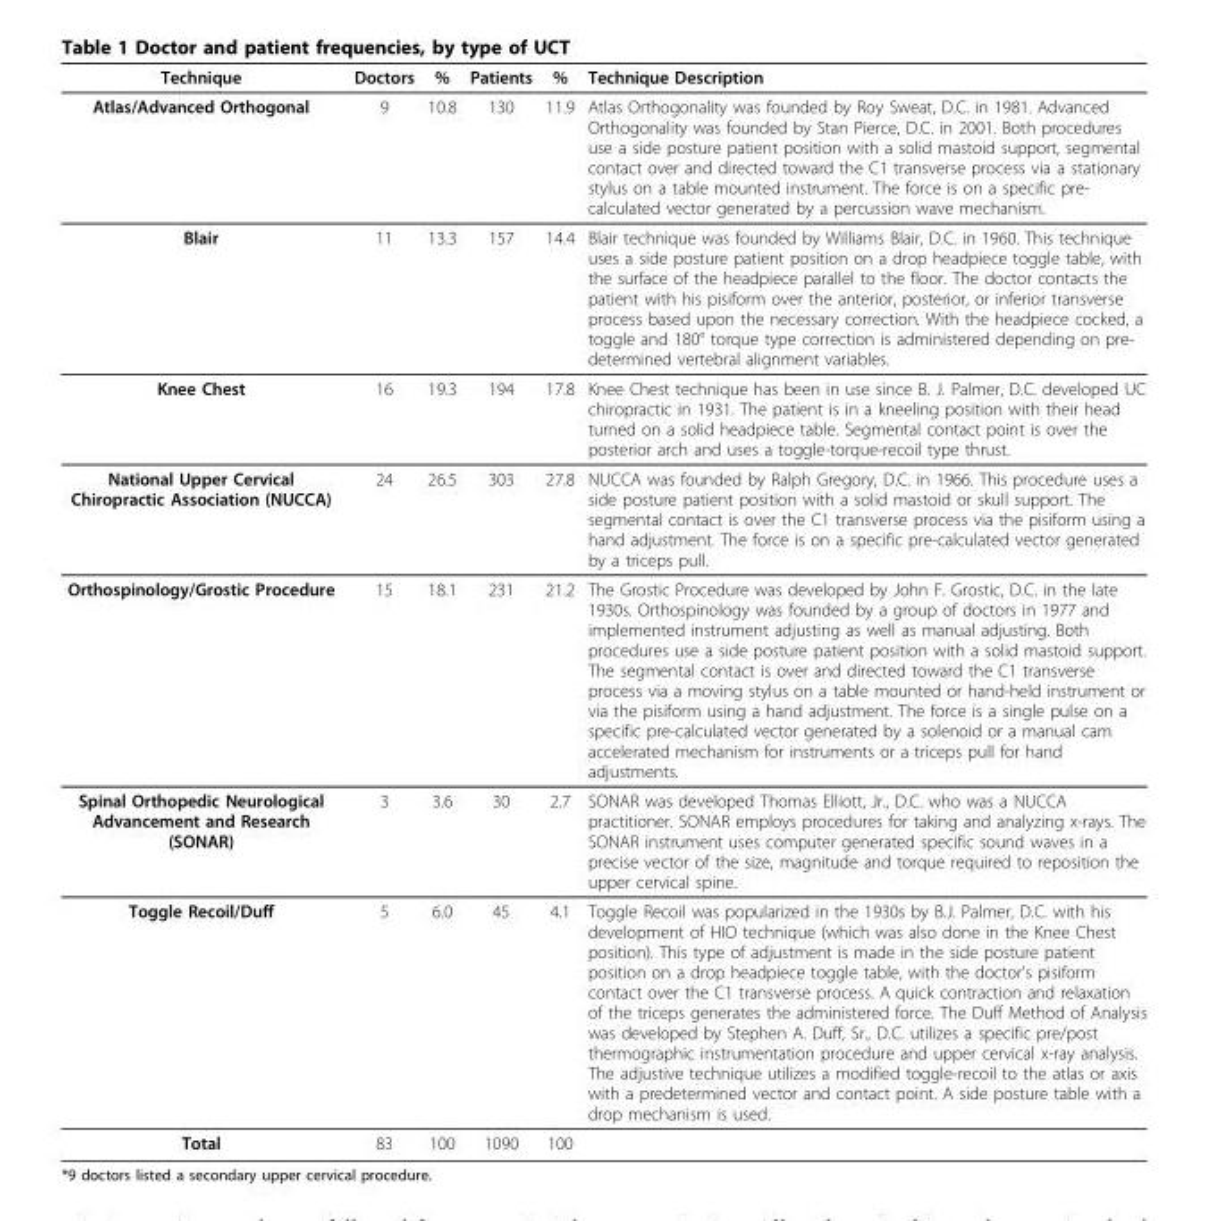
<table><thead><tr><td>Technique</td><td>Doctors</td><td>%</td><td>Patients</td><td>%</td><td>Technique Description</td></tr></thead><tbody><tr><td>Atlas/Advanced Orthogonal</td><td>9</td><td>10.8</td><td>130</td><td>11.9</td><td>Atlas Orthogonality was founded by Roy Sweat, D.C. in 1981. Advanced Orthogonality was founded by Stan Pierce, D.C. in 2001. Both procedures use a side posture patient position with a solid mastoid support, segmental contact over and directed toward the C1 transverse process via a stationary stylus on a table mounted instrument. The force is on a specific pre- calculated vector generated by a percussion wave mechanism.</td></tr><tr><td>Blair</td><td>11</td><td>13.3</td><td>157</td><td>14.4</td><td>Blair technique was founded by Williams Blair, D.C. in 1960. This technique uses a side posture patient position on a drop headpiece toggle table, with the surface of the headpiece parallel to the floor. The doctor contacts the patient with his pisiform over the anterior, posterior, or inferior transverse process based upon the necessary correction. With the headpiece cocked, a toggle and 180° torque type correction is administered depending on pre- determined vertebral alignment variables.</td></tr><tr><td>Knee Chest</td><td>16</td><td>19.3</td><td>194</td><td>17.8</td><td>Knee Chest technique has been in use since B. J. Palmer, D.C. developed UC chiropractic in 1931. The patient is in a kneeling position with their head turned on a solid headpiece table. Segmental contact point is over the posterior arch and uses a toggle-torque-recoil type thrust.</td></tr><tr><td>National Upper Cervical Chiropractic Association (NUCCA)</td><td>24</td><td>26.5</td><td>303</td><td>27.8</td><td>NUCCA was founded by Ralph Gregory, D.C. in 1966. This procedure uses a side posture patient position with a solid mastoid or skull support. The segmental contact is over the C1 transverse process via the pisiform using a hand adjustment. The force is on a specific pre-calculated vector generated by a triceps pull.</td></tr><tr><td>Orthospinology/Grostic Procedure</td><td>15</td><td>18.1</td><td>231</td><td>21.2</td><td>The Grostic Procedure was developed by John F. Grostic, D.C. in the late 1930s. Orthospinology was founded by a group of doctors in 1977 and implemented instrument adjusting as well as manual adjusting. Both procedures use a side posture patient position with a solid mastoid support. The segmental contact is over and directed toward the C1 transverse process via a moving stylus on a table mounted or hand-held instrument or via the pisiform using a hand adjustment. The force is a single pulse on a specific pre-calculated vector generated by a solenoid or a manual cam accelerated mechanism for instruments or a triceps pull for hand adjustments.</td></tr><tr><td>Spinal Orthopedic Neurological Advancement and Research (SONAR)</td><td>3</td><td>3.6</td><td>30</td><td>2.7</td><td>SONAR was developed Thomas Elliott, Jr., D.C. who was a NUCCA practitioner. SONAR employs procedures for taking and analyzing x-rays. The SONAR instrument uses computer generated specific sound waves in a precise vector of the size, magnitude and torque required to reposition the upper cervical spine.</td></tr><tr><td>Toggle Recoil/Duff</td><td>5</td><td>6.0</td><td>45</td><td>4.1</td><td>Toggle Recoil was popularized in the 1930s by B.J. Palmer, D.C. with his development of HIO technique (which was also done in the Knee Chest position). This type of adjustment is made in the side posture patient position on a drop headpiece toggle table, with the doctor’s pisiform contact over the C1 transverse process. A quick contraction and relaxation of the triceps generates the administered force. The Duff Method of Analysis was developed by Stephen A. Duff, Sr., D.C. utilizes a specific pre/post thermographic instrumentation procedure and upper cervical x-ray analysis. The adjustive technique utilizes a modified toggle-recoil to the atlas or axis with a predetermined vector and contact point. A side posture table with a drop mechanism is used.</td></tr><tr><td>Total</td><td>83</td><td>100</td><td>1090</td><td>100</td><td></td></tr></tbody></table>